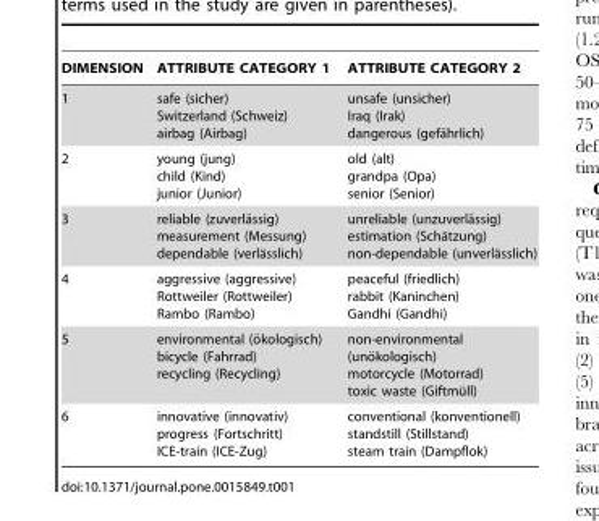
<table><thead><tr><td>DIMENSION</td><td>ATTRIBUTE CATEGORY 1</td><td>ATTRIBUTE CATEGORY 2</td></tr></thead><tbody><tr><td>1</td><td>safe (sicher) Switzerland (Schweiz) airbag (Airbag)</td><td>unsafe (unsicher) Iraq (Irak) dangerous (gefa¨hrlich)</td></tr><tr><td>2</td><td>young (jung) child (Kind) junior (Junior)</td><td>old (alt) grandpa (Opa) senior (Senior)</td></tr><tr><td>3</td><td>reliable (zuverla¨ssig) measurement (Messung) dependable (verla¨sslich)</td><td>unreliable (unzuverla¨ssig) estimation (Scha¨tzung) non-dependable (unverla¨sslich)</td></tr><tr><td>4</td><td>aggressive (aggressive) Rottweiler (Rottweiler) Rambo (Rambo)</td><td>peaceful (friedlich) rabbit (Kaninchen) Gandhi (Gandhi)</td></tr><tr><td>5</td><td>environmental (o¨kologisch) bicycle (Fahrrad) recycling (Recycling)</td><td>non-environmental (uno¨kologisch) motorcycle (Motorrad) toxic waste (Giftmu¨ll)</td></tr><tr><td>6</td><td>innovative (innovativ) progress (Fortschritt) ICE-train (ICE-Zug)</td><td>conventional (konventionell) standstill (Stillstand) steam train (Dampflok)</td></tr></tbody></table>